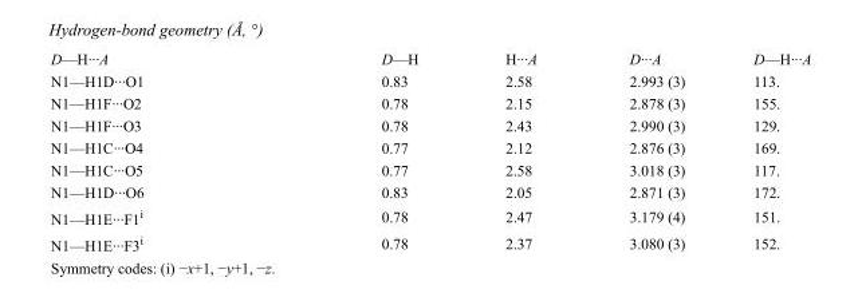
<table><tbody><tr><td>D—H···A</td><td>D—H</td><td>H···A</td><td>D···A</td><td>D—H···A</td></tr><tr><td>N1—H1D···O1</td><td>0.83</td><td>2.58</td><td>2.993 (3)</td><td>113.</td></tr><tr><td>N1—H1F···O2</td><td>0.78</td><td>2.15</td><td>2.878 (3)</td><td>155.</td></tr><tr><td>N1—H1F···O3</td><td>0.78</td><td>2.43</td><td>2.990 (3)</td><td>129.</td></tr><tr><td>N1—H1C···O4</td><td>0.77</td><td>2.12</td><td>2.876 (3)</td><td>169.</td></tr><tr><td>N1—H1C···O5</td><td>0.77</td><td>2.58</td><td>3.018 (3)</td><td>117.</td></tr><tr><td>N1—H1D···O6</td><td>0.83</td><td>2.05</td><td>2.871 (3)</td><td>172.</td></tr><tr><td>N1—H1E···F1<sup>i</sup></td><td>0.78</td><td>2.47</td><td>3.179 (4)</td><td>151.</td></tr><tr><td>N1—H1E···F3<sup>i</sup></td><td>0.78</td><td>2.37</td><td>3.080 (3)</td><td>152.</td></tr></tbody></table>